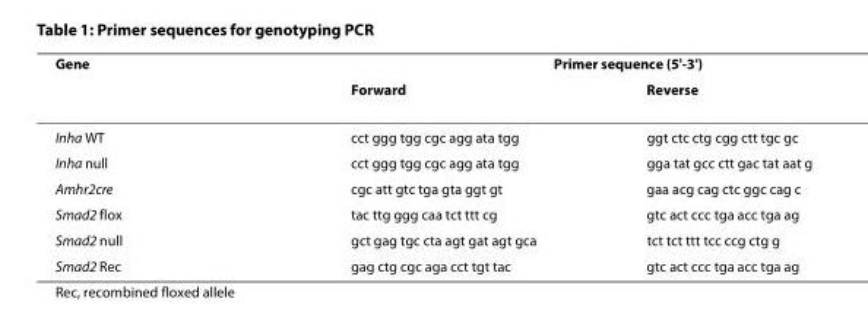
<table><thead><tr><td rowspan="2">Gene</td><td colspan="2">Primer sequence (5&#x27;-3&#x27;)</td></tr><tr><td>Forward</td><td>Reverse</td></tr></thead><tbody><tr><td>Inha WT</td><td>cct ggg tgg cgc agg ata tgg</td><td>ggt ctc ctg cgg ctt tgc gc</td></tr><tr><td>Inha null</td><td>cct ggg tgg cgc agg ata tgg</td><td>gga tat gcc ctt gac tat aat g</td></tr><tr><td>Amhr2cre</td><td>cgc att gtc tga gta ggt gt</td><td>gaa acg cag ctc ggc cag c</td></tr><tr><td>Smad2 flox</td><td>tac ttg ggg caa tct ttt cg</td><td>gtc act ccc tga acc tga ag</td></tr><tr><td>Smad2 null</td><td>gct gag tgc cta agt gat agt gca</td><td>tct tct ttt tcc ccg ctg g</td></tr><tr><td>Smad2 Rec</td><td>gag ctg cgc aga cct tgt tac</td><td>gtc act ccc tga acc tga ag</td></tr></tbody></table>